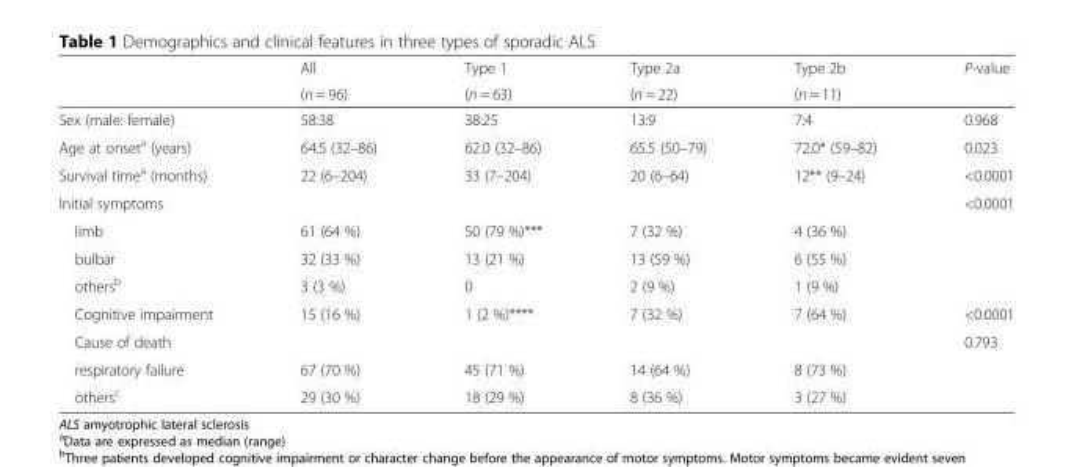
<table><thead><tr><td rowspan="2"></td><td rowspan="2">All (n = 96)</td><td rowspan="2">Type 1 (n = 63)</td><td rowspan="2">Type 2a (n = 22)</td><td rowspan="2">Type 2b (n = 11)</td><td rowspan="2">P-value</td></tr><tr></tr></thead><tbody><tr><td>Sex (male: female)</td><td>58:38</td><td>38:25</td><td>13:9</td><td>7:4</td><td>0.968</td></tr><tr><td>Age at onset<sup>a</sup> (years)</td><td>64.5 (32–86)</td><td>62.0 (32–86)</td><td>65.5 (50–79)</td><td>72.0* (59–82)</td><td>0.023</td></tr><tr><td>Survival time<sup>a</sup> (months)</td><td>22 (6–204)</td><td>33 (7–204)</td><td>20 (6–64)</td><td>12** (9–24)</td><td>&lt;0.0001</td></tr><tr><td>Initial symptoms</td><td></td><td></td><td></td><td></td><td>&lt;0.0001</td></tr><tr><td>limb</td><td>61 (64 %)</td><td>50 (79 %)***</td><td>7 (32 %)</td><td>4 (36 %)</td><td></td></tr><tr><td>bulbar</td><td>32 (33 %)</td><td>13 (21 %)</td><td>13 (59 %)</td><td>6 (55 %)</td><td></td></tr><tr><td>others<sup>b</sup></td><td>3 (3 %)</td><td>0</td><td>2 (9 %)</td><td>1 (9 %)</td><td></td></tr><tr><td>Cognitive impairment</td><td>15 (16 %)</td><td>1 (2 %)****</td><td>7 (32 %)</td><td>7 (64 %)</td><td>&lt;0.0001</td></tr><tr><td>Cause of death</td><td></td><td></td><td></td><td></td><td>0.793</td></tr><tr><td>respiratory failure</td><td>67 (70 %)</td><td>45 (71 %)</td><td>14 (64 %)</td><td>8 (73 %)</td><td></td></tr><tr><td>others<sup>c</sup></td><td>29 (30 %)</td><td>18 (29 %)</td><td>8 (36 %)</td><td>3 (27 %)</td><td></td></tr></tbody></table>